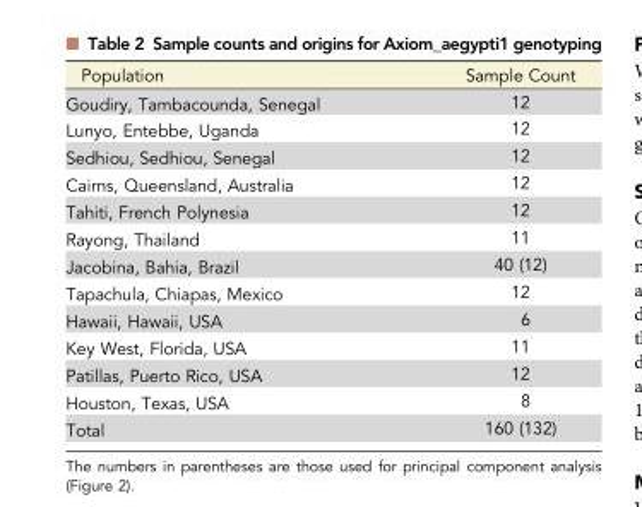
<table><thead><tr><td>Population</td><td>Sample Count</td></tr></thead><tbody><tr><td>Goudiry, Tambacounda, Senegal</td><td>12</td></tr><tr><td>Lunyo, Entebbe, Uganda</td><td>12</td></tr><tr><td>Sedhiou, Sedhiou, Senegal</td><td>12</td></tr><tr><td>Cairns, Queensland, Australia</td><td>12</td></tr><tr><td>Tahiti, French Polynesia</td><td>12</td></tr><tr><td>Rayong, Thailand</td><td>11</td></tr><tr><td>Jacobina, Bahia, Brazil</td><td>40 (12)</td></tr><tr><td>Tapachula, Chiapas, Mexico</td><td>12</td></tr><tr><td>Hawaii, Hawaii, USA</td><td>6</td></tr><tr><td>Key West, Florida, USA</td><td>11</td></tr><tr><td>Patillas, Puerto Rico, USA</td><td>12</td></tr><tr><td>Houston, Texas, USA</td><td>8</td></tr><tr><td>Total</td><td>160 (132)</td></tr></tbody></table>